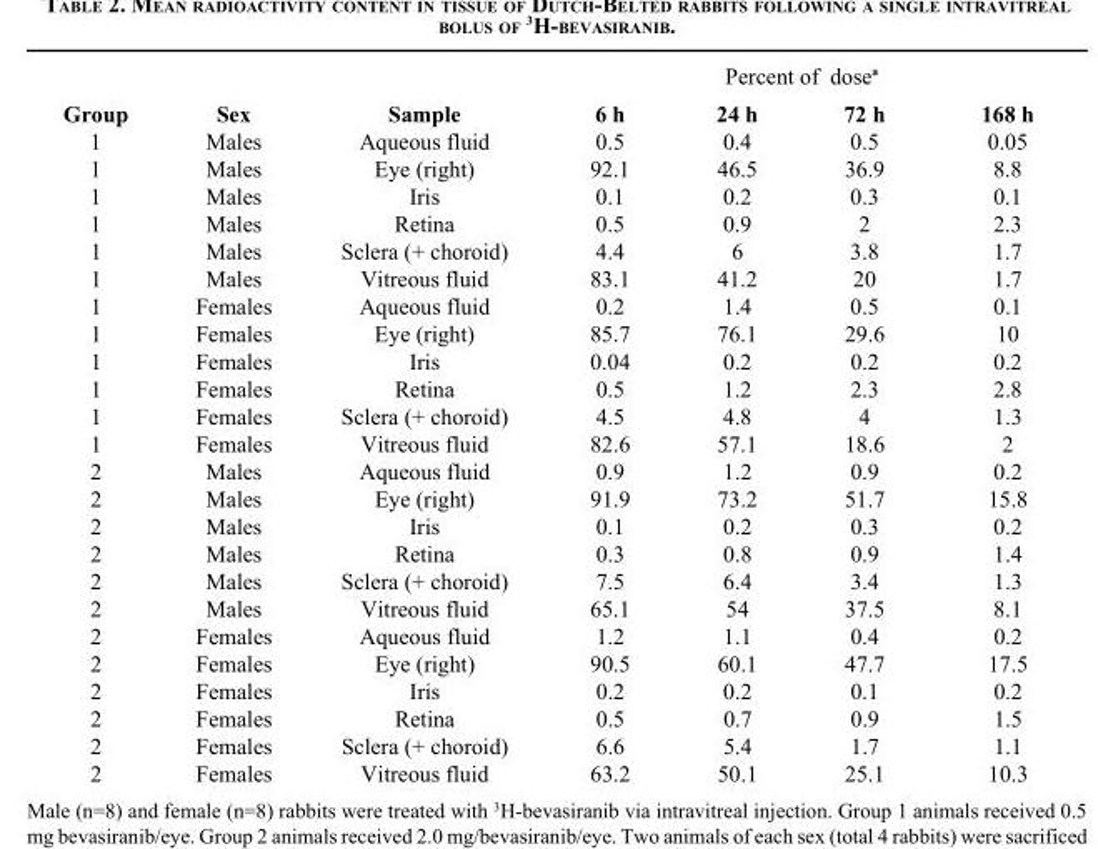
<table><thead><tr><td rowspan="2">Group</td><td rowspan="2">Sex</td><td rowspan="2">Sample</td><td colspan="4">Percent of dose<sup>a</sup></td></tr><tr><td>6 h</td><td>24 h</td><td>72 h</td><td>168 h</td></tr></thead><tbody><tr><td>1</td><td>Males</td><td>Aqueous fluid</td><td>0.5</td><td>0.4</td><td>0.5</td><td>0.05</td></tr><tr><td>1</td><td>Males</td><td>Eye (right)</td><td>92.1</td><td>46.5</td><td>36.9</td><td>8.8</td></tr><tr><td>1</td><td>Males</td><td>Iris</td><td>0.1</td><td>0.2</td><td>0.3</td><td>0.1</td></tr><tr><td>1</td><td>Males</td><td>Retina</td><td>0.5</td><td>0.9</td><td>2</td><td>2.3</td></tr><tr><td>1</td><td>Males</td><td>Sclera (+ choroid)</td><td>4.4</td><td>6</td><td>3.8</td><td>1.7</td></tr><tr><td>1</td><td>Males</td><td>Vitreous fluid</td><td>83.1</td><td>41.2</td><td>20</td><td>1.7</td></tr><tr><td>1</td><td>Females</td><td>Aqueous fluid</td><td>0.2</td><td>1.4</td><td>0.5</td><td>0.1</td></tr><tr><td>1</td><td>Females</td><td>Eye (right)</td><td>85.7</td><td>76.1</td><td>29.6</td><td>10</td></tr><tr><td>1</td><td>Females</td><td>Iris</td><td>0.04</td><td>0.2</td><td>0.2</td><td>0.2</td></tr><tr><td>1</td><td>Females</td><td>Retina</td><td>0.5</td><td>1.2</td><td>2.3</td><td>2.8</td></tr><tr><td>1</td><td>Females</td><td>Sclera (+ choroid)</td><td>4.5</td><td>4.8</td><td>4</td><td>1.3</td></tr><tr><td>1</td><td>Females</td><td>Vitreous fluid</td><td>82.6</td><td>57.1</td><td>18.6</td><td>2</td></tr><tr><td>2</td><td>Males</td><td>Aqueous fluid</td><td>0.9</td><td>1.2</td><td>0.9</td><td>0.2</td></tr><tr><td>2</td><td>Males</td><td>Eye (right)</td><td>91.9</td><td>73.2</td><td>51.7</td><td>15.8</td></tr><tr><td>2</td><td>Males</td><td>Iris</td><td>0.1</td><td>0.2</td><td>0.3</td><td>0.2</td></tr><tr><td>2</td><td>Males</td><td>Retina</td><td>0.3</td><td>0.8</td><td>0.9</td><td>1.4</td></tr><tr><td>2</td><td>Males</td><td>Sclera (+ choroid)</td><td>7.5</td><td>6.4</td><td>3.4</td><td>1.3</td></tr><tr><td>2</td><td>Males</td><td>Vitreous fluid</td><td>65.1</td><td>54</td><td>37.5</td><td>8.1</td></tr><tr><td>2</td><td>Females</td><td>Aqueous fluid</td><td>1.2</td><td>1.1</td><td>0.4</td><td>0.2</td></tr><tr><td>2</td><td>Females</td><td>Eye (right)</td><td>90.5</td><td>60.1</td><td>47.7</td><td>17.5</td></tr><tr><td>2</td><td>Females</td><td>Iris</td><td>0.2</td><td>0.2</td><td>0.1</td><td>0.2</td></tr><tr><td>2</td><td>Females</td><td>Retina</td><td>0.5</td><td>0.7</td><td>0.9</td><td>1.5</td></tr><tr><td>2</td><td>Females</td><td>Sclera (+ choroid)</td><td>6.6</td><td>5.4</td><td>1.7</td><td>1.1</td></tr><tr><td>2</td><td>Females</td><td>Vitreous fluid</td><td>63.2</td><td>50.1</td><td>25.1</td><td>10.3</td></tr></tbody></table>